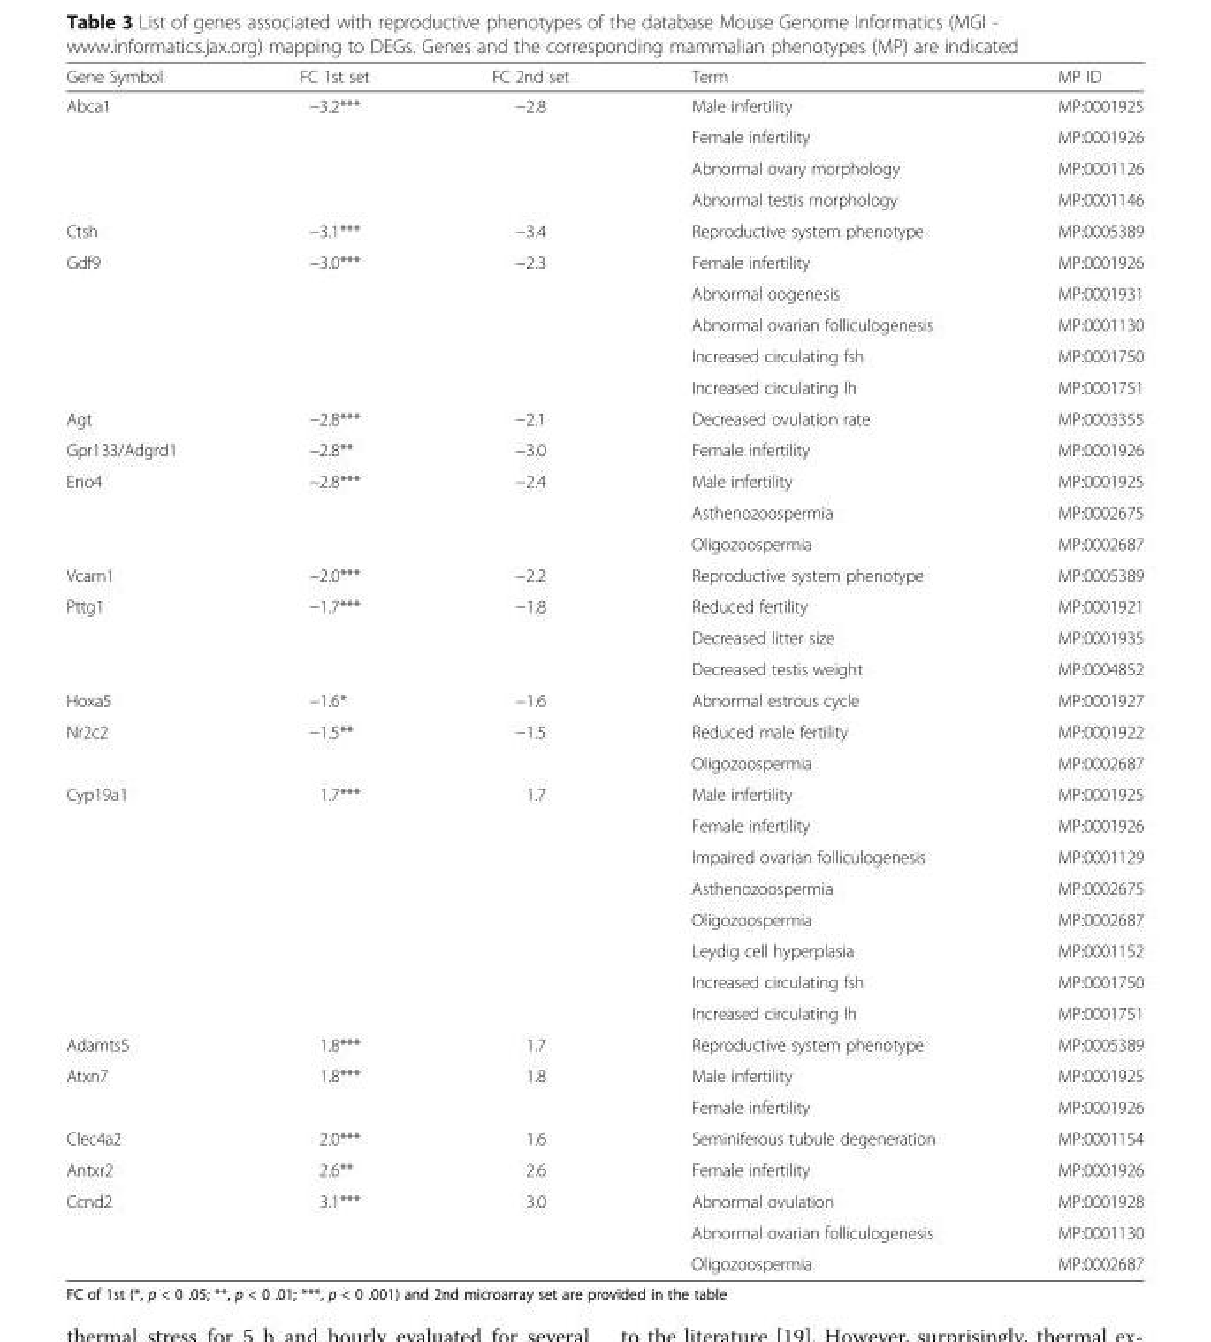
<table><thead><tr><td>Gene Symbol</td><td>FC 1st set</td><td>FC 2nd set</td><td>Term</td><td>MP ID</td></tr></thead><tbody><tr><td rowspan="4">Abca1</td><td rowspan="4">−3.2***</td><td rowspan="4">−2.8</td><td>Male infertility</td><td>MP:0001925</td></tr><tr><td>Female infertility</td><td>MP:0001926</td></tr><tr><td>Abnormal ovary morphology</td><td>MP:0001126</td></tr><tr><td>Abnormal testis morphology</td><td>MP:0001146</td></tr><tr><td>Ctsh</td><td>−3.1***</td><td>−3.4</td><td>Reproductive system phenotype</td><td>MP:0005389</td></tr><tr><td rowspan="5">Gdf9</td><td rowspan="5">−3.0***</td><td rowspan="5">−2.3</td><td>Female infertility</td><td>MP:0001926</td></tr><tr><td>Abnormal oogenesis</td><td>MP:0001931</td></tr><tr><td>Abnormal ovarian folliculogenesis</td><td>MP:0001130</td></tr><tr><td>Increased circulating fsh</td><td>MP:0001750</td></tr><tr><td>Increased circulating lh</td><td>MP:0001751</td></tr><tr><td>Agt</td><td>−2.8***</td><td>−2.1</td><td>Decreased ovulation rate</td><td>MP:0003355</td></tr><tr><td>Gpr133/Adgrd1</td><td>−2.8**</td><td>−3.0</td><td>Female infertility</td><td>MP:0001926</td></tr><tr><td rowspan="3">Eno4</td><td rowspan="3">−2.8***</td><td rowspan="3">−2.4</td><td>Male infertility</td><td>MP:0001925</td></tr><tr><td>Asthenozoospermia</td><td>MP:0002675</td></tr><tr><td>Oligozoospermia</td><td>MP:0002687</td></tr><tr><td>Vcam1</td><td>−2.0***</td><td>−2.2</td><td>Reproductive system phenotype</td><td>MP:0005389</td></tr><tr><td rowspan="3">Pttg1</td><td rowspan="3">−1.7***</td><td rowspan="3">−1.8</td><td>Reduced fertility</td><td>MP:0001921</td></tr><tr><td>Decreased litter size</td><td>MP:0001935</td></tr><tr><td>Decreased testis weight</td><td>MP:0004852</td></tr><tr><td>Hoxa5</td><td>−1.6*</td><td>−1.6</td><td>Abnormal estrous cycle</td><td>MP:0001927</td></tr><tr><td rowspan="2">Nr2c2</td><td rowspan="2">−1.5**</td><td rowspan="2">−1.5</td><td>Reduced male fertility</td><td>MP:0001922</td></tr><tr><td>Oligozoospermia</td><td>MP:0002687</td></tr><tr><td rowspan="8">Cyp19a1</td><td rowspan="8">1.7***</td><td rowspan="8">1.7</td><td>Male infertility</td><td>MP:0001925</td></tr><tr><td>Female infertility</td><td>MP:0001926</td></tr><tr><td>Impaired ovarian folliculogenesis</td><td>MP:0001129</td></tr><tr><td>Asthenozoospermia</td><td>MP:0002675</td></tr><tr><td>Oligozoospermia</td><td>MP:0002687</td></tr><tr><td>Leydig cell hyperplasia</td><td>MP:0001152</td></tr><tr><td>Increased circulating fsh</td><td>MP:0001750</td></tr><tr><td>Increased circulating lh</td><td>MP:0001751</td></tr><tr><td>Adamts5</td><td>1.8***</td><td>1.7</td><td>Reproductive system phenotype</td><td>MP:0005389</td></tr><tr><td rowspan="2">Atxn7</td><td rowspan="2">1.8***</td><td rowspan="2">1.8</td><td>Male infertility</td><td>MP:0001925</td></tr><tr><td>Female infertility</td><td>MP:0001926</td></tr><tr><td>Clec4a2</td><td>2.0***</td><td>1.6</td><td>Seminiferous tubule degeneration</td><td>MP:0001154</td></tr><tr><td>Antxr2</td><td>2.6**</td><td>2.6</td><td>Female infertility</td><td>MP:0001926</td></tr><tr><td rowspan="3">Ccnd2</td><td rowspan="3">3.1***</td><td rowspan="3">3.0</td><td>Abnormal ovulation</td><td>MP:0001928</td></tr><tr><td>Abnormal ovarian folliculogenesis</td><td>MP:0001130</td></tr><tr><td>Oligozoospermia</td><td>MP:0002687</td></tr></tbody></table>